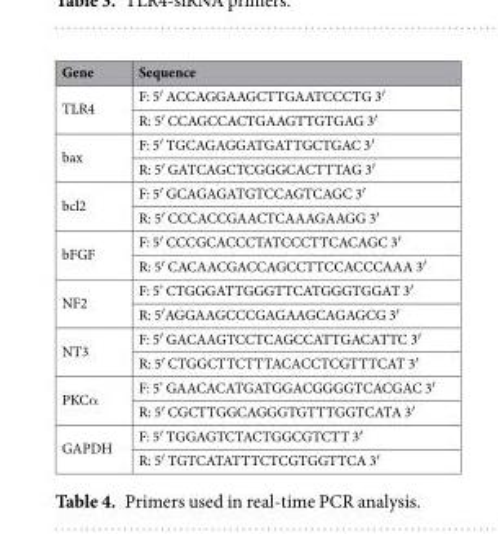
<table><thead><tr><td>Gene</td><td>Sequence</td></tr></thead><tbody><tr><td rowspan="2">TLR4</td><td>F: 5′ ACCAGGAAGCTTGAATCCCTG 3′</td></tr><tr><td>R: 5′ CCAGCCACTGAAGTTGTGAG 3′</td></tr><tr><td rowspan="2">bax</td><td>F: 5′ TGCAGAGGATGATTGCTGAC 3′</td></tr><tr><td>R: 5′ GATCAGCTCGGGCACTTTAG 3′</td></tr><tr><td rowspan="2">bcl2</td><td>F: 5′ GCAGAGATGTCCAGTCAGC 3′</td></tr><tr><td>R: 5′ CCCACCGAACTCAAAGAAGG 3′</td></tr><tr><td rowspan="2">bFGF</td><td>F: 5′ CCCGCACCCTATCCCTTCACAGC 3′</td></tr><tr><td>R: 5′ CACAACGACCAGCCTTCCACCCAAA 3′</td></tr><tr><td rowspan="2">NF2</td><td>F: 5’ CTGGGATTGGGTTCATGGGTGGAT 3′</td></tr><tr><td>R: 5′AGGAAGCCCGAGAAGCAGAGCG 3′</td></tr><tr><td rowspan="2">NT3</td><td>F: 5′ GACAAGTCCTCAGCCATTGACATTC 3′</td></tr><tr><td>R: 5′ CTGGCTTCTTTACACCTCGTTTCAT 3′</td></tr><tr><td rowspan="2">PKCα</td><td>F: 5’ GAACACATGATGGACGGGGTCACGAC 3′</td></tr><tr><td>R: 5′ CGCTTGGCAGGGTGTTTGGTCATA 3′</td></tr><tr><td rowspan="2">GAPDH</td><td>F: 5′ TGGAGTCTACTGGCGTCTT 3′</td></tr><tr><td>R: 5′ TGTCATATTTCTCGTGGTTCA 3′</td></tr></tbody></table>